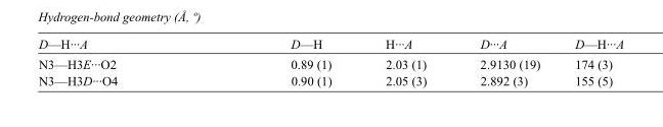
<table><tbody><tr><td>D—H···A</td><td>D—H</td><td>H···A</td><td>D···A</td><td>D—H···A</td></tr><tr><td>N3—H3E···O2</td><td>0.89 (1)</td><td>2.03 (1)</td><td>2.9130 (19)</td><td>174 (3)</td></tr><tr><td>N3—H3D···O4</td><td>0.90 (1)</td><td>2.05 (3)</td><td>2.892 (3)</td><td>155 (5)</td></tr></tbody></table>